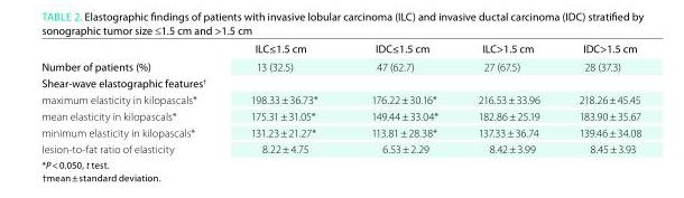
<table><thead><tr><td></td><td>ILC≤1.5 cm</td><td>IDC≤1.5 cm</td><td>ILC&gt;1.5 cm</td><td>IDC&gt;1.5 cm</td></tr></thead><tbody><tr><td>number of patients (%)</td><td>13 (32.5)</td><td>47 (62.7)</td><td>27 (67.5)</td><td>28 (37.3)</td></tr><tr><td colspan="5">shear-wave elastographic features<sup>†</sup></td></tr><tr><td>maximum elasticity in kilopascals*</td><td>198.33 ± 36.73*</td><td>176.22 ± 30.16*</td><td>216.53 ± 33.96</td><td>218.26 ± 45.45</td></tr><tr><td>mean elasticity in kilopascals*</td><td>175.31 ± 31.05*</td><td>149.44 ± 33.04*</td><td>182.86 ± 25.19</td><td>183.90 ± 35.67</td></tr><tr><td>minimum elasticity in kilopascals*</td><td>131.23 ± 21.27*</td><td>113.81 ± 28.38*</td><td>137.33 ± 36.74</td><td>139.46 ± 34.08</td></tr><tr><td>lesion-to-fat ratio of elasticity</td><td>8.22 ± 4.75</td><td>6.53 ± 2.29</td><td>8.42 ± 3.99</td><td>8.45 ± 3.93</td></tr></tbody></table>